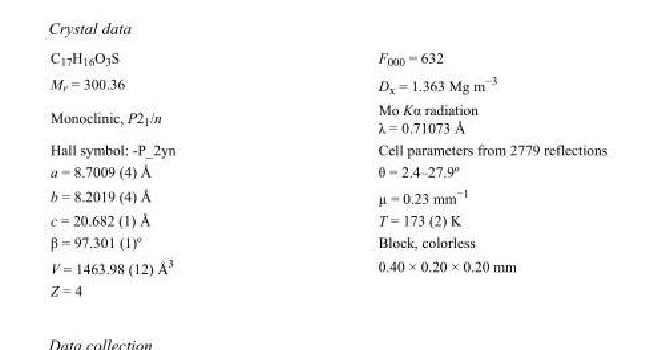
<table><tbody><tr><td>C<sub>17</sub>H<sub>16</sub>O<sub>3</sub>S</td><td>F<sub>000</sub> = 632</td></tr><tr><td>M<sub>r</sub> = 300.36</td><td>D<sub>x</sub> = 1.363 Mg m<sup>−3</sup></td></tr><tr><td>Monoclinic, P2<sub>1</sub>/n</td><td>Mo Kα radiation λ = 0.71073 Å</td></tr><tr><td>Hall symbol: -P_2yn</td><td>Cell parameters from 2779 reflections</td></tr><tr><td>a = 8.7009 (4) Å</td><td>θ = 2.4–27.9º</td></tr><tr><td>b = 8.2019 (4) Å</td><td>µ = 0.23 mm<sup>−1</sup></td></tr><tr><td>c = 20.682 (1) Å</td><td>T = 173 (2) K</td></tr><tr><td>β = 97.301 (1)º</td><td>Block, colorless</td></tr><tr><td>V = 1463.98 (12) Å<sup>3</sup></td><td>0.40 × 0.20 × 0.20 mm</td></tr><tr><td>Z = 4</td><td></td></tr></tbody></table>